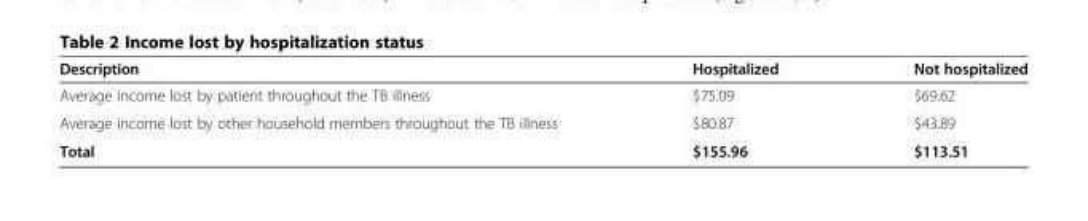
<table><thead><tr><td>Description</td><td>Hospitalized</td><td>Not hospitalized</td></tr></thead><tbody><tr><td>Average income lost by patient throughout the TB illness</td><td>$75.09</td><td>$69.62</td></tr><tr><td>Average income lost by other household members throughout the TB illness</td><td>$80.87</td><td>$43.89</td></tr><tr><td>Total</td><td>$155.96</td><td>$113.51</td></tr></tbody></table>